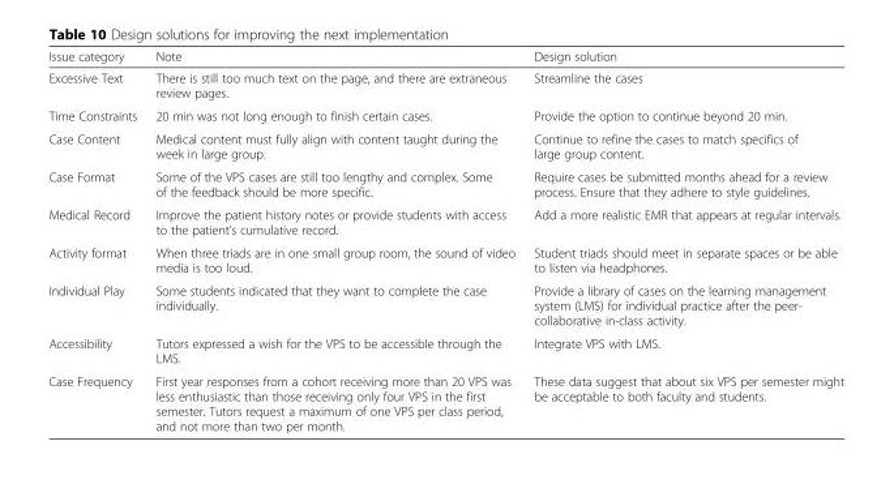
<table><thead><tr><td>Issue category</td><td>Note</td><td>Design solution</td></tr></thead><tbody><tr><td>Excessive Text</td><td>There is still too much text on the page, and there are extraneous review pages.</td><td>Streamline the cases</td></tr><tr><td>Time Constraints</td><td>20 min was not long enough to finish certain cases.</td><td>Provide the option to continue beyond 20 min.</td></tr><tr><td>Case Content</td><td>Medical content must fully align with content taught during the week in large group.</td><td>Continue to refine the cases to match specifics of large group content.</td></tr><tr><td>Case Format</td><td>Some of the VPS cases are still too lengthy and complex. Some of the feedback should be more specific.</td><td>Require cases be submitted months ahead for a review process. Ensure that they adhere to style guidelines.</td></tr><tr><td>Medical Record</td><td>Improve the patient history notes or provide students with access to the patient’s cumulative record.</td><td>Add a more realistic EMR that appears at regular intervals.</td></tr><tr><td>Activity format</td><td>When three triads are in one small group room, the sound of video media is too loud.</td><td>Student triads should meet in separate spaces or be able to listen via headphones.</td></tr><tr><td>Individual Play</td><td>Some students indicated that they want to complete the case individually.</td><td>Provide a library of cases on the learning management system (LMS) for individual practice after the peer- collaborative in-class activity.</td></tr><tr><td>Accessibility</td><td>Tutors expressed a wish for the VPS to be accessible through the LMS.</td><td>Integrate VPS with LMS.</td></tr><tr><td>Case Frequency</td><td>First year responses from a cohort receiving more than 20 VPS was less enthusiastic than those receiving only four VPS in the first semester. Tutors request a maximum of one VPS per class period, and not more than two per month.</td><td>These data suggest that about six VPS per semester might be acceptable to both faculty and students.</td></tr></tbody></table>